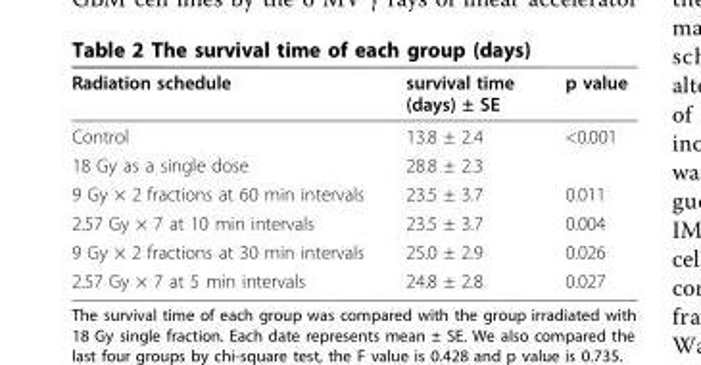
<table><thead><tr><td>Radiation schedule</td><td>survival time (days) ± SE</td><td>p value</td></tr></thead><tbody><tr><td>Control</td><td>13.8 ± 2.4</td><td>&lt;0.001</td></tr><tr><td>18 Gy as a single dose</td><td>28.8 ± 2.3</td><td></td></tr><tr><td>9 Gy × 2 fractions at 60 min intervals</td><td>23.5 ± 3.7</td><td>0.011</td></tr><tr><td>2.57 Gy × 7 at 10 min intervals</td><td>23.5 ± 3.7</td><td>0.004</td></tr><tr><td>9 Gy × 2 fractions at 30 min intervals</td><td>25.0 ± 2.9</td><td>0.026</td></tr><tr><td>2.57 Gy × 7 at 5 min intervals</td><td>24.8 ± 2.8</td><td>0.027</td></tr></tbody></table>